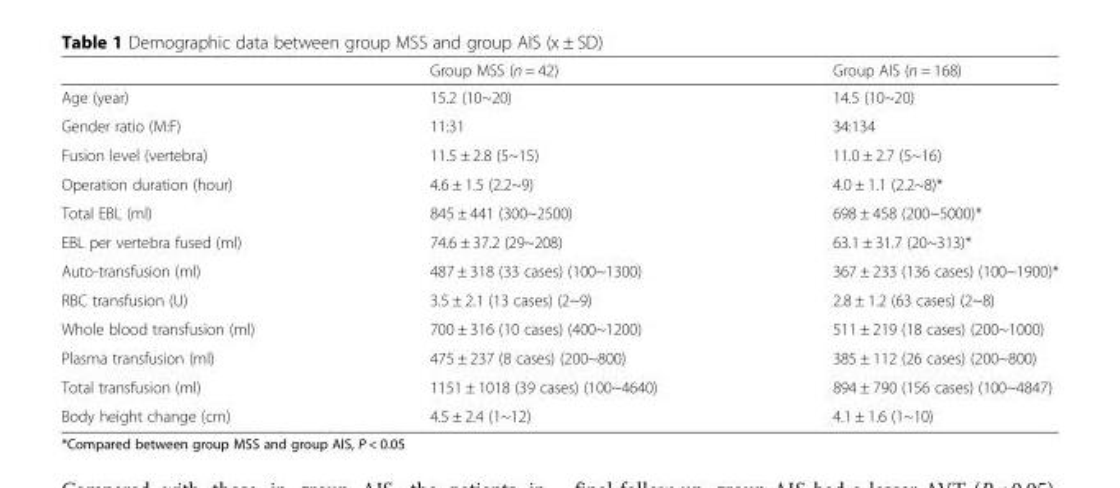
<table><thead><tr><td></td><td>Group MSS (n = 42)</td><td>Group AIS (n = 168)</td></tr></thead><tbody><tr><td>Age (year)</td><td>15.2 (10~20)</td><td>14.5 (10~20)</td></tr><tr><td>Gender ratio (M:F)</td><td>11:31</td><td>34:134</td></tr><tr><td>Fusion level (vertebra)</td><td>11.5 ± 2.8 (5~15)</td><td>11.0 ± 2.7 (5~16)</td></tr><tr><td>Operation duration (hour)</td><td>4.6 ± 1.5 (2.2~9)</td><td>4.0 ± 1.1 (2.2~8)*</td></tr><tr><td>Total EBL (ml)</td><td>845 ± 441 (300~2500)</td><td>698 ± 458 (200~5000)*</td></tr><tr><td>EBL per vertebra fused (ml)</td><td>74.6 ± 37.2 (29~208)</td><td>63.1 ± 31.7 (20~313)*</td></tr><tr><td>Auto-transfusion (ml)</td><td>487 ± 318 (33 cases) (100~1300)</td><td>367 ± 233 (136 cases) (100~1900)*</td></tr><tr><td>RBC transfusion (U)</td><td>3.5 ± 2.1 (13 cases) (2~9)</td><td>2.8 ± 1.2 (63 cases) (2~8)</td></tr><tr><td>Whole blood transfusion (ml)</td><td>700 ± 316 (10 cases) (400~1200)</td><td>511 ± 219 (18 cases) (200~1000)</td></tr><tr><td>Plasma transfusion (ml)</td><td>475 ± 237 (8 cases) (200~800)</td><td>385 ± 112 (26 cases) (200~800)</td></tr><tr><td>Total transfusion (ml)</td><td>1151 ± 1018 (39 cases) (100~4640)</td><td>894 ± 790 (156 cases) (100~4847)</td></tr><tr><td>Body height change (cm)</td><td>4.5 ± 2.4 (1~12)</td><td>4.1 ± 1.6 (1~10)</td></tr></tbody></table>